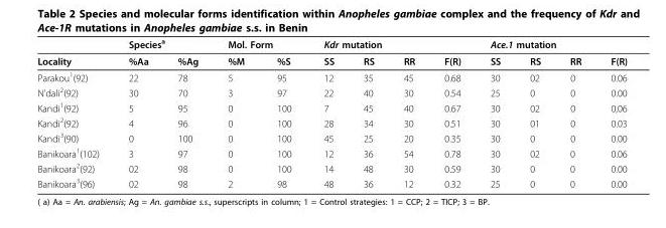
<table><thead><tr><td rowspan="2">Locality</td><td colspan="2">Species<sup>a</sup></td><td colspan="2">Mol. Form</td><td colspan="4">Kdr mutation</td><td colspan="4">Ace.1 mutation</td></tr><tr><td>%Aa</td><td>%Ag</td><td>%M</td><td>%S</td><td>SS</td><td>RS</td><td>RR</td><td>F(R)</td><td>SS</td><td>RS</td><td>RR</td><td>F(R)</td></tr></thead><tbody><tr><td>Parakou<sup>1</sup>(92)</td><td>22</td><td>78</td><td>5</td><td>95</td><td>12</td><td>35</td><td>45</td><td>0.68</td><td>30</td><td>02</td><td>0</td><td>0.06</td></tr><tr><td>N’dali<sup>2</sup>(92)</td><td>30</td><td>70</td><td>3</td><td>97</td><td>22</td><td>40</td><td>30</td><td>0.54</td><td>25</td><td>0</td><td>0</td><td>0.00</td></tr><tr><td>Kandi<sup>1</sup>(92)</td><td>5</td><td>95</td><td>0</td><td>100</td><td>7</td><td>45</td><td>40</td><td>0.67</td><td>30</td><td>02</td><td>0</td><td>0,06</td></tr><tr><td>Kandi<sup>2</sup>(92)</td><td>4</td><td>96</td><td>0</td><td>100</td><td>28</td><td>34</td><td>30</td><td>0.51</td><td>30</td><td>01</td><td>0</td><td>0.03</td></tr><tr><td>Kandi<sup>3</sup>(90)</td><td>0</td><td>100</td><td>0</td><td>100</td><td>45</td><td>25</td><td>20</td><td>0.35</td><td>30</td><td>0</td><td>0</td><td>0.00</td></tr><tr><td>Banikoara<sup>1</sup>(102)</td><td>3</td><td>97</td><td>0</td><td>100</td><td>12</td><td>36</td><td>54</td><td>0.78</td><td>30</td><td>02</td><td>0</td><td>0.06</td></tr><tr><td>Banikoara<sup>2</sup>(92)</td><td>02</td><td>98</td><td>0</td><td>100</td><td>14</td><td>48</td><td>30</td><td>0.59</td><td>30</td><td>0</td><td>0</td><td>0.00</td></tr><tr><td>Banikoara<sup>3</sup>(96)</td><td>02</td><td>98</td><td>2</td><td>98</td><td>48</td><td>36</td><td>12</td><td>0.32</td><td>25</td><td>0</td><td>0</td><td>0.00</td></tr></tbody></table>